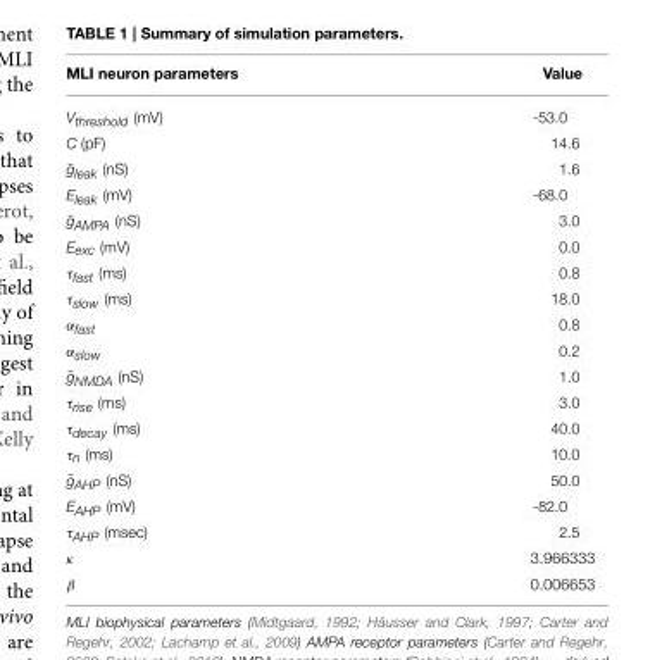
<table><thead><tr><td>MLI neuron parameters</td><td>Value</td></tr></thead><tbody><tr><td>V<sub>threshold</sub> (mV)</td><td>-53.0</td></tr><tr><td>C (pF)</td><td>14.6</td></tr><tr><td>¯gleak (nS)</td><td>1.6</td></tr><tr><td>E<sub>leak</sub> (mV)</td><td>-68.0</td></tr><tr><td>¯gAMPA (nS)</td><td>3.0</td></tr><tr><td>E<sub>exc</sub> (mV)</td><td>0.0</td></tr><tr><td>τ<sub>fast</sub> (ms)</td><td>0.8</td></tr><tr><td>τ<sub>slow</sub> (ms)</td><td>18.0</td></tr><tr><td>α<sub>fast</sub></td><td>0.8</td></tr><tr><td>α<sub>slow</sub></td><td>0.2</td></tr><tr><td>¯gNMDA (nS)</td><td>1.0</td></tr><tr><td>τ<sub>rise</sub> (ms)</td><td>3.0</td></tr><tr><td>τ<sub>decay</sub> (ms)</td><td>40.0</td></tr><tr><td>τ<sub>n</sub> (ms)</td><td>10.0</td></tr><tr><td>¯gAHP (nS)</td><td>50.0</td></tr><tr><td>E<sub>AHP</sub> (mV)</td><td>-82.0</td></tr><tr><td>τ<sub>AHP</sub> (msec)</td><td>2.5</td></tr><tr><td>κ</td><td>3.966333</td></tr><tr><td>β</td><td>0.006653</td></tr></tbody></table>